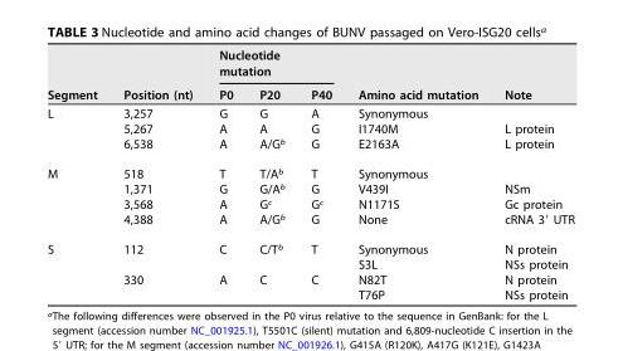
<table><thead><tr><td rowspan="2">Segment</td><td rowspan="2">Position (nt)</td><td colspan="3">Nucleotide mutation</td><td rowspan="2">Amino acid mutation</td><td rowspan="2">Note</td></tr><tr><td>P0</td><td>P20</td><td>P40</td></tr></thead><tbody><tr><td rowspan="3">L</td><td>3,257</td><td>G</td><td>G</td><td>A</td><td>Synonymous</td><td></td></tr><tr><td>5,267</td><td>A</td><td>A</td><td>G</td><td>I1740M</td><td>L protein</td></tr><tr><td>6,538</td><td>A</td><td>A/G<sup>b</sup></td><td>G</td><td>E2163A</td><td>L protein</td></tr><tr><td rowspan="4">M</td><td>518</td><td>T</td><td>T/A<sup>b</sup></td><td>T</td><td>Synonymous</td><td></td></tr><tr><td>1,371</td><td>G</td><td>G/A<sup>b</sup></td><td>G</td><td>V439I</td><td>NSm</td></tr><tr><td>3,568</td><td>A</td><td>G<sup>c</sup></td><td>G<sup>c</sup></td><td>N1171S</td><td>Gc protein</td></tr><tr><td>4,388</td><td>A</td><td>A/G<sup>b</sup></td><td>G</td><td>None</td><td>cRNA 3= UTR</td></tr><tr><td rowspan="4">S</td><td>112</td><td>C</td><td>C/T<sup>b</sup></td><td>T</td><td>Synonymous</td><td>N protein</td></tr><tr><td></td><td></td><td></td><td></td><td>S3L</td><td>NSs protein</td></tr><tr><td>330</td><td>A</td><td>C</td><td>C</td><td>N82T</td><td>N protein</td></tr><tr><td></td><td></td><td></td><td></td><td>T76P</td><td>NSs protein</td></tr></tbody></table>